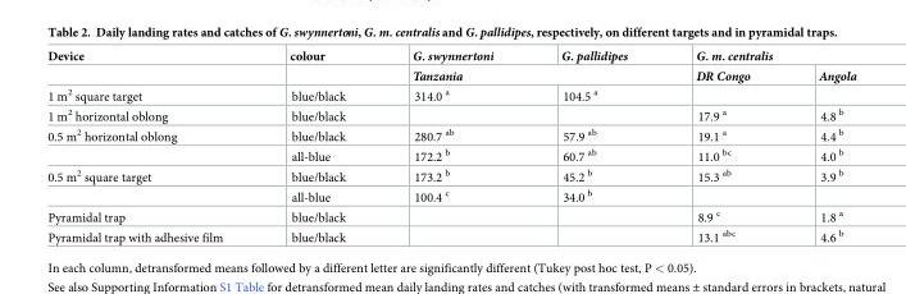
<table><thead><tr><td rowspan="2">Device</td><td rowspan="2">colour</td><td>G. swynnertoni</td><td>G. pallidipes</td><td colspan="2">G. m. centralis</td></tr><tr><td colspan="2">Tanzania</td><td>DR Congo</td><td>Angola</td></tr></thead><tbody><tr><td>1 m<sup>2</sup> square target</td><td>blue/black</td><td>314.0 <sup>a</sup></td><td>104.5 <sup>a</sup></td><td></td><td></td></tr><tr><td>1 m<sup>2</sup> horizontal oblong</td><td>blue/black</td><td></td><td></td><td>17.9 <sup>a</sup></td><td>4.8 <sup>b</sup></td></tr><tr><td rowspan="2">0.5 m<sup>2</sup> horizontal oblong</td><td>blue/black</td><td>280.7 <sup>ab</sup></td><td>57.9 <sup>ab</sup></td><td>19.1 <sup>a</sup></td><td>4.4 <sup>b</sup></td></tr><tr><td>all-blue</td><td>172.2 <sup>b</sup></td><td>60.7 <sup>ab</sup></td><td>11.0 <sup>bc</sup></td><td>4.0 <sup>b</sup></td></tr><tr><td rowspan="2">0.5 m<sup>2</sup> square target</td><td>blue/black</td><td>173.2 <sup>b</sup></td><td>45.2 <sup>b</sup></td><td>15.3 <sup>ab</sup></td><td>3.9 <sup>b</sup></td></tr><tr><td>all-blue</td><td>100.4 <sup>c</sup></td><td>34.0 <sup>b</sup></td><td></td><td></td></tr><tr><td>Pyramidal trap</td><td>blue/black</td><td></td><td></td><td>8.9 <sup>c</sup></td><td>1.8 <sup>a</sup></td></tr><tr><td>Pyramidal trap with adhesive film</td><td>blue/black</td><td></td><td></td><td>13.1 <sup>abc</sup></td><td>4.6 <sup>b</sup></td></tr></tbody></table>